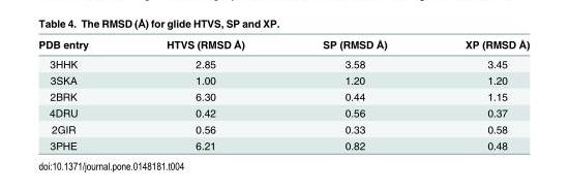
<table><thead><tr><td>PDB entry</td><td>HTVS (RMSD Å)</td><td>SP (RMSD Å)</td><td>XP (RMSD Å)</td></tr></thead><tbody><tr><td>3HHK</td><td>2.85</td><td>3.58</td><td>3.45</td></tr><tr><td>3SKA</td><td>1.00</td><td>1.20</td><td>1.20</td></tr><tr><td>2BRK</td><td>6.30</td><td>0.44</td><td>1.15</td></tr><tr><td>4DRU</td><td>0.42</td><td>0.56</td><td>0.37</td></tr><tr><td>2GIR</td><td>0.56</td><td>0.33</td><td>0.58</td></tr><tr><td>3PHE</td><td>6.21</td><td>0.82</td><td>0.48</td></tr></tbody></table>